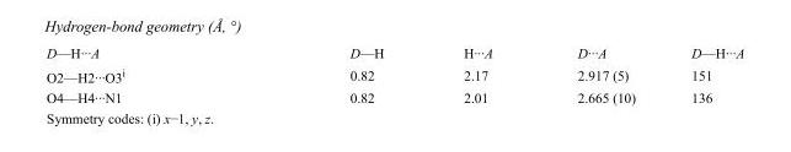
<table><tbody><tr><td>D—H···A</td><td>D—H</td><td>H···A</td><td>D···A</td><td>D—H···A</td></tr><tr><td>O2—H2···O3<sup>i</sup></td><td>0.82</td><td>2.17</td><td>2.917 (5)</td><td>151</td></tr><tr><td>O4—H4···N1</td><td>0.82</td><td>2.01</td><td>2.665 (10)</td><td>136</td></tr></tbody></table>